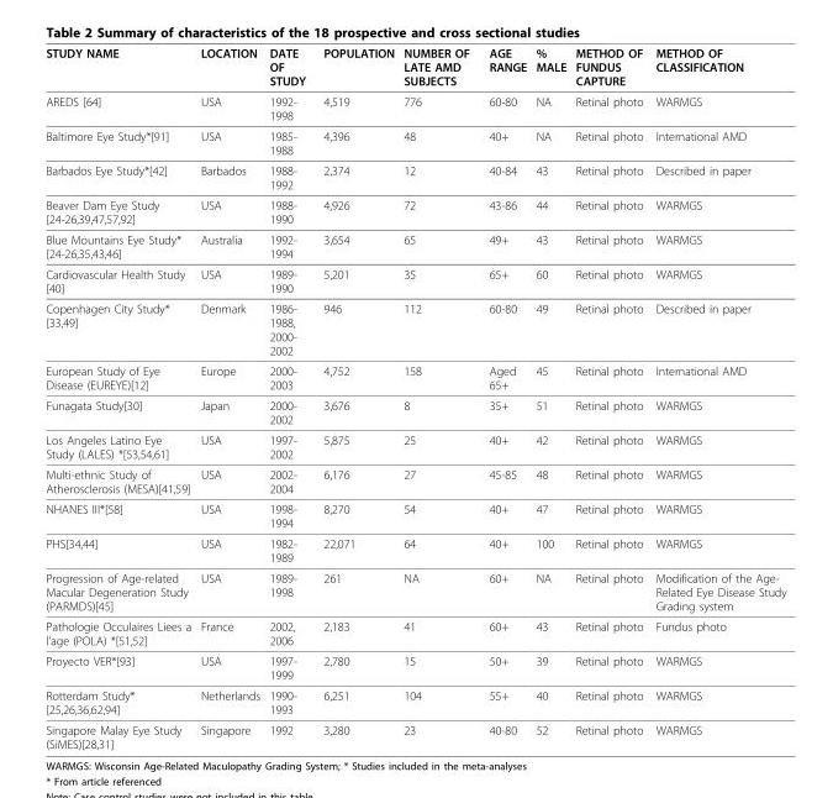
<table><thead><tr><td>STUDY NAME</td><td>LOCATION</td><td>DATE OF STUDY</td><td>POPULATION</td><td>NUMBER OF LATE AMD SUBJECTS</td><td>AGE RANGE</td><td>% MALE</td><td>METHOD OF FUNDUS CAPTURE</td><td>METHOD OF CLASSIFICATION</td></tr></thead><tbody><tr><td>AREDS [64]</td><td>USA</td><td>1992- 1998</td><td>4,519</td><td>776</td><td>60-80</td><td>NA</td><td>Retinal photo</td><td>WARMGS</td></tr><tr><td>Baltimore Eye Study*[91]</td><td>USA</td><td>1985- 1988</td><td>4,396</td><td>48</td><td>40+</td><td>NA</td><td>Retinal photo</td><td>International AMD</td></tr><tr><td>Barbados Eye Study*[42]</td><td>Barbados</td><td>1988- 1992</td><td>2,374</td><td>12</td><td>40-84</td><td>43</td><td>Retinal photo</td><td>Described in paper</td></tr><tr><td>Beaver Dam Eye Study [24-26,39,47,57,92]</td><td>USA</td><td>1988- 1990</td><td>4,926</td><td>72</td><td>43-86</td><td>44</td><td>Retinal photo</td><td>WARMGS</td></tr><tr><td>Blue Mountains Eye Study* [24-26,35,43,46]</td><td>Australia</td><td>1992- 1994</td><td>3,654</td><td>65</td><td>49+</td><td>43</td><td>Retinal photo</td><td>WARMGS</td></tr><tr><td>Cardiovascular Health Study [40]</td><td>USA</td><td>1989- 1990</td><td>5,201</td><td>35</td><td>65+</td><td>60</td><td>Retinal photo</td><td>WARMGS</td></tr><tr><td>Copenhagen City Study* [33,49]</td><td>Denmark</td><td>1986- 1988, 2000- 2002</td><td>946</td><td>112</td><td>60-80</td><td>49</td><td>Retinal photo</td><td>Described in paper</td></tr><tr><td>European Study of Eye Disease (EUREYE)[12]</td><td>Europe</td><td>2000- 2003</td><td>4,752</td><td>158</td><td>Aged 65+</td><td>45</td><td>Retinal photo</td><td>International AMD</td></tr><tr><td>Funagata Study[30]</td><td>Japan</td><td>2000- 2002</td><td>3,676</td><td>8</td><td>35+</td><td>51</td><td>Retinal photo</td><td>WARMGS</td></tr><tr><td>Los Angeles Latino Eye Study (LALES) *[53,54,61]</td><td>USA</td><td>1997- 2002</td><td>5,875</td><td>25</td><td>40+</td><td>42</td><td>Retinal photo</td><td>WARMGS</td></tr><tr><td>Multi-ethnic Study of Atherosclerosis (MESA)[41,59]</td><td>USA</td><td>2002- 2004</td><td>6,176</td><td>27</td><td>45-85</td><td>48</td><td>Retinal photo</td><td>WARMGS</td></tr><tr><td>NHANES III*[58]</td><td>USA</td><td>1998- 1994</td><td>8,270</td><td>54</td><td>40+</td><td>47</td><td>Retinal photo</td><td>WARMGS</td></tr><tr><td>PHS[34,44]</td><td>USA</td><td>1982- 1989</td><td>22,071</td><td>64</td><td>40+</td><td>100</td><td>Retinal photo</td><td>WARMGS</td></tr><tr><td>Progression of Age-related Macular Degeneration Study (PARMDS)[45]</td><td>USA</td><td>1989- 1998</td><td>261</td><td>NA</td><td>60+</td><td>NA</td><td>Retinal photo</td><td>Modification of the Age- Related Eye Disease Study Grading system</td></tr><tr><td>Pathologie Occulaires Liees a l’age (POLA) *[51,52]</td><td>France</td><td>2002, 2006</td><td>2,183</td><td>41</td><td>60+</td><td>43</td><td>Retinal photo</td><td>Fundus photo</td></tr><tr><td>Proyecto VER*[93]</td><td>USA</td><td>1997- 1999</td><td>2,780</td><td>15</td><td>50+</td><td>39</td><td>Retinal photo</td><td>WARMGS</td></tr><tr><td>Rotterdam Study* [25,26,36,62,94]</td><td>Netherlands</td><td>1990- 1993</td><td>6,251</td><td>104</td><td>55+</td><td>40</td><td>Retinal photo</td><td>WARMGS</td></tr><tr><td>Singapore Malay Eye Study (SiMES)[28,31]</td><td>Singapore</td><td>1992</td><td>3,280</td><td>23</td><td>40-80</td><td>52</td><td>Retinal photo</td><td>WARMGS</td></tr></tbody></table>